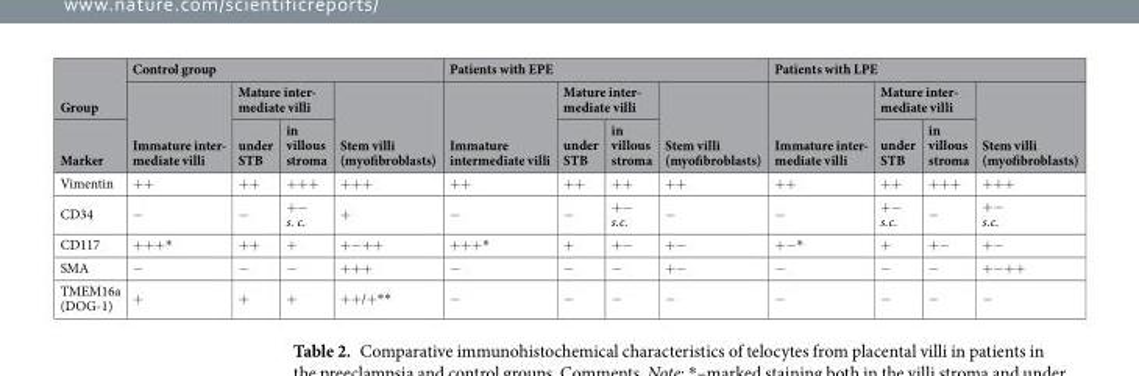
<table><thead><tr><td rowspan="3">Group Marker</td><td colspan="4">Control group</td><td colspan="4">Patients with EPE</td><td colspan="4">Patients with LPE</td></tr><tr><td rowspan="2">Immature inter- mediate villi</td><td colspan="2">Mature inter- mediate villi</td><td rowspan="2">Stem villi (myofibroblasts)</td><td rowspan="2">Immature intermediate villi</td><td colspan="2">Mature inter- mediate villi</td><td rowspan="2">Stem villi (myofibroblasts)</td><td rowspan="2">Immature inter- mediate villi</td><td colspan="2">Mature inter- mediate villi</td><td rowspan="2">Stem villi (myofibroblasts)</td></tr><tr><td>under STB</td><td>in villous stroma</td><td>under STB</td><td>in villous stroma</td><td>under STB</td><td>in villous stroma</td></tr></thead><tbody><tr><td>Vimentin</td><td>++</td><td>++</td><td>+++</td><td>+++</td><td>++</td><td>++</td><td>++</td><td>++</td><td>++</td><td>++</td><td>+++</td><td>+++</td></tr><tr><td>CD34</td><td>−</td><td>−</td><td>+− s. c.</td><td>+</td><td>−</td><td>−</td><td>+− s.c.</td><td>−</td><td>−</td><td>+− s.c.</td><td>−</td><td>+− s.c.</td></tr><tr><td>CD117</td><td>+++*</td><td>++</td><td>+</td><td>+−++</td><td>+++*</td><td>+</td><td>+−</td><td>+−</td><td>+−*</td><td>+</td><td>+−</td><td>+−</td></tr><tr><td>SMA</td><td>−</td><td>−</td><td>−</td><td>+++</td><td>−</td><td>−</td><td>−</td><td>+−</td><td>−</td><td>−</td><td>−</td><td>+−++</td></tr><tr><td>TMEM16a (DOG-1)</td><td>+</td><td>+</td><td>+</td><td>++/+**</td><td>−</td><td>−</td><td>−</td><td>−</td><td>−</td><td>−</td><td>−</td><td>−</td></tr></tbody></table>